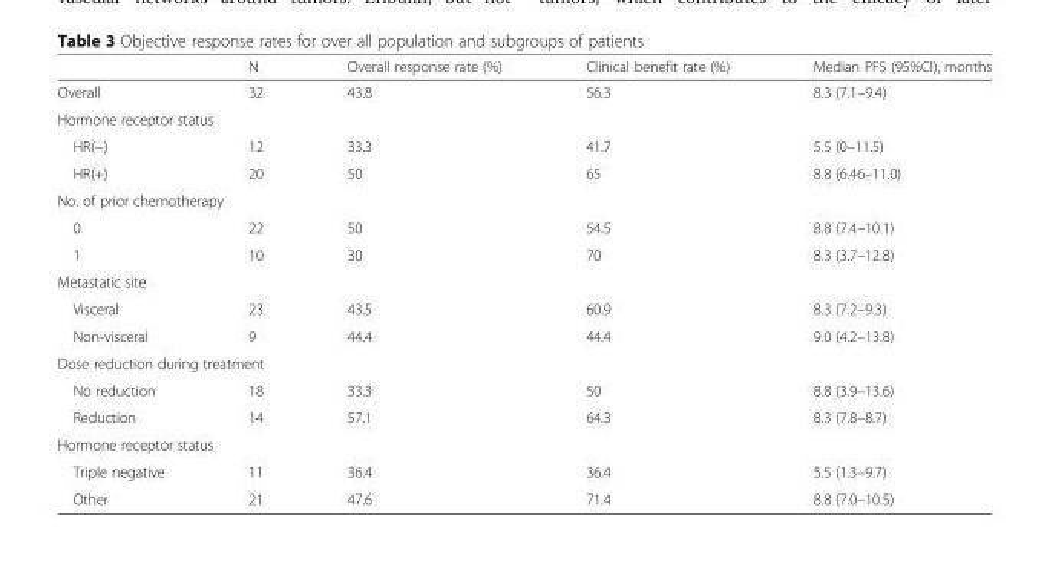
<table><thead><tr><td></td><td>N</td><td>Overall response rate (%)</td><td>Clinical benefit rate (%)</td><td>Median PFS (95%CI), months</td></tr></thead><tbody><tr><td>Overall</td><td>32</td><td>43.8</td><td>56.3</td><td>8.3 (7.1–9.4)</td></tr><tr><td colspan="5">Hormone receptor status</td></tr><tr><td>HR(−)</td><td>12</td><td>33.3</td><td>41.7</td><td>5.5 (0–11.5)</td></tr><tr><td>HR(+)</td><td>20</td><td>50</td><td>65</td><td>8.8 (6.46–11.0)</td></tr><tr><td colspan="5">No. of prior chemotherapy</td></tr><tr><td>0</td><td>22</td><td>50</td><td>54.5</td><td>8.8 (7.4–10.1)</td></tr><tr><td>1</td><td>10</td><td>30</td><td>70</td><td>8.3 (3.7–12.8)</td></tr><tr><td colspan="5">Metastatic site</td></tr><tr><td>Visceral</td><td>23</td><td>43.5</td><td>60.9</td><td>8.3 (7.2–9.3)</td></tr><tr><td>Non-visceral</td><td>9</td><td>44.4</td><td>44.4</td><td>9.0 (4.2–13.8)</td></tr><tr><td colspan="5">Dose reduction during treatment</td></tr><tr><td>No reduction</td><td>18</td><td>33.3</td><td>50</td><td>8.8 (3.9–13.6)</td></tr><tr><td>Reduction</td><td>14</td><td>57.1</td><td>64.3</td><td>8.3 (7.8–8.7)</td></tr><tr><td colspan="5">Hormone receptor status</td></tr><tr><td>Triple negative</td><td>11</td><td>36.4</td><td>36.4</td><td>5.5 (1.3–9.7)</td></tr><tr><td>Other</td><td>21</td><td>47.6</td><td>71.4</td><td>8.8 (7.0–10.5)</td></tr></tbody></table>